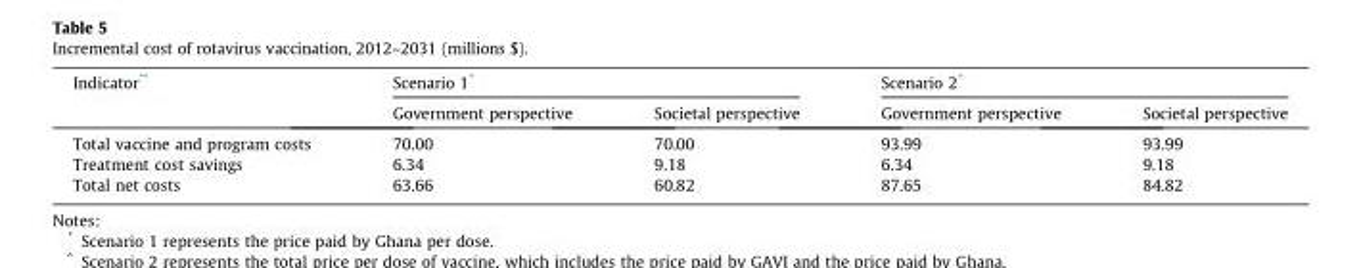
<table><thead><tr><td rowspan="2">Indicator**</td><td colspan="2">Scenario 1*</td><td colspan="2">Scenario 2^</td></tr><tr><td>Government perspective</td><td>Societal perspective</td><td>Government perspective</td><td>Societal perspective</td></tr></thead><tbody><tr><td>Total vaccine and program costs</td><td>70.00</td><td>70.00</td><td>93.99</td><td>93.99</td></tr><tr><td>Treatment cost savings</td><td>6.34</td><td>9.18</td><td>6.34</td><td>9.18</td></tr><tr><td>Total net costs</td><td>63.66</td><td>60.82</td><td>87.65</td><td>84.82</td></tr></tbody></table>